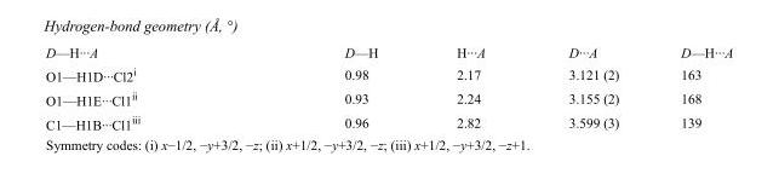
<table><tbody><tr><td>D—H···A</td><td>D—H</td><td>H···A</td><td>D···A</td><td>D—H···A</td></tr><tr><td>O1—H1D···Cl2<sup>i</sup></td><td>0.98</td><td>2.17</td><td>3.121 (2)</td><td>163</td></tr><tr><td>O1—H1E···Cl1<sup>ii</sup></td><td>0.93</td><td>2.24</td><td>3.155 (2)</td><td>168</td></tr><tr><td>C1—H1B···Cl1<sup>iii</sup></td><td>0.96</td><td>2.82</td><td>3.599 (3)</td><td>139</td></tr></tbody></table>